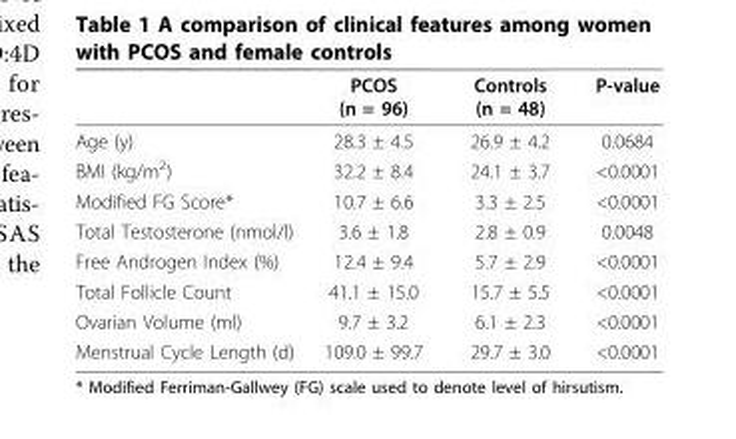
<table><thead><tr><td></td><td>PCOS (n = 96)</td><td>Controls (n = 48)</td><td>P-value</td></tr></thead><tbody><tr><td>Age (y)</td><td>28.3 ± 4.5</td><td>26.9 ± 4.2</td><td>0.0684</td></tr><tr><td>BMI (kg/m<sup>2</sup>)</td><td>32.2 ± 8.4</td><td>24.1 ± 3.7</td><td>&lt;0.0001</td></tr><tr><td>Modified FG Score*</td><td>10.7 ± 6.6</td><td>3.3 ± 2.5</td><td>&lt;0.0001</td></tr><tr><td>Total Testosterone (nmol/l)</td><td>3.6 ± 1.8</td><td>2.8 ± 0.9</td><td>0.0048</td></tr><tr><td>Free Androgen Index (%)</td><td>12.4 ± 9.4</td><td>5.7 ± 2.9</td><td>&lt;0.0001</td></tr><tr><td>Total Follicle Count</td><td>41.1 ± 15.0</td><td>15.7 ± 5.5</td><td>&lt;0.0001</td></tr><tr><td>Ovarian Volume (ml)</td><td>9.7 ± 3.2</td><td>6.1 ± 2.3</td><td>&lt;0.0001</td></tr><tr><td>Menstrual Cycle Length (d)</td><td>109.0 ± 99.7</td><td>29.7 ± 3.0</td><td>&lt;0.0001</td></tr></tbody></table>